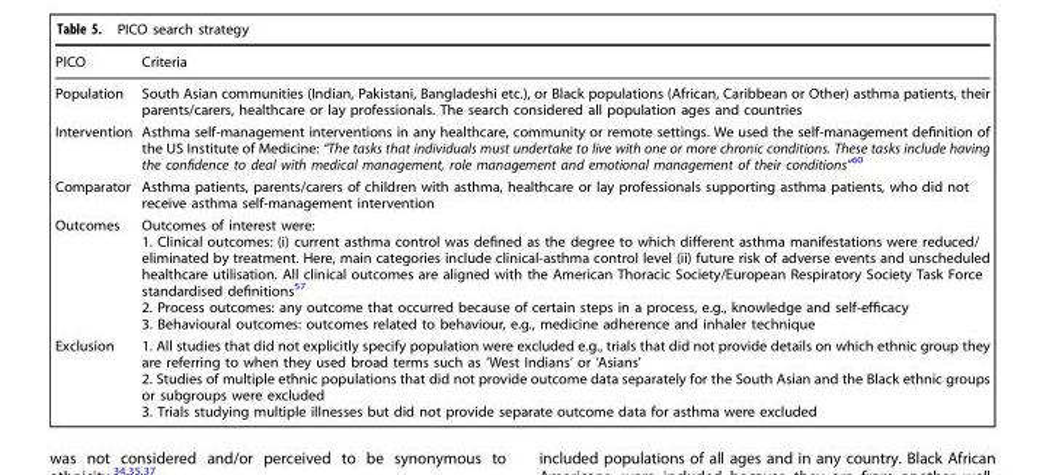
<table><thead><tr><td>PICO</td><td>Criteria</td></tr></thead><tbody><tr><td>Population</td><td>South Asian communities (Indian, Pakistani, Bangladeshi etc.), or Black populations (African, Caribbean or Other) asthma patients, their parents/carers, healthcare or lay professionals. The search considered all population ages and countries</td></tr><tr><td>Intervention</td><td>Asthma self-management interventions in any healthcare, community or remote settings. We used the self-management definition of the US Institute of Medicine: “The tasks that individuals must undertake to live with one or more chronic conditions. These tasks include having the confidence to deal with medical management, role management and emotional management of their conditions”<sup>60</sup></td></tr><tr><td>Comparator</td><td>Asthma patients, parents/carers of children with asthma, healthcare or lay professionals supporting asthma patients, who did not receive asthma self-management intervention</td></tr><tr><td>Outcomes</td><td>Outcomes of interest were: 1. Clinical outcomes: (i) current asthma control was defined as the degree to which different asthma manifestations were reduced/ eliminated by treatment. Here, main categories include clinical-asthma control level (ii) future risk of adverse events and unscheduled healthcare utilisation. All clinical outcomes are aligned with the American Thoracic Society/European Respiratory Society Task Force standardised definitions<sup>57</sup> 2. Process outcomes: any outcome that occurred because of certain steps in a process, e.g., knowledge and self-efficacy 3. Behavioural outcomes: outcomes related to behaviour, e.g., medicine adherence and inhaler technique</td></tr><tr><td>Exclusion</td><td>1. All studies that did not explicitly specify population were excluded e.g., trials that did not provide details on which ethnic group they are referring to when they used broad terms such as ‘West Indians’ or ‘Asians’ 2. Studies of multiple ethnic populations that did not provide outcome data separately for the South Asian and the Black ethnic groups or subgroups were excluded 3. Trials studying multiple illnesses but did not provide separate outcome data for asthma were excluded</td></tr></tbody></table>